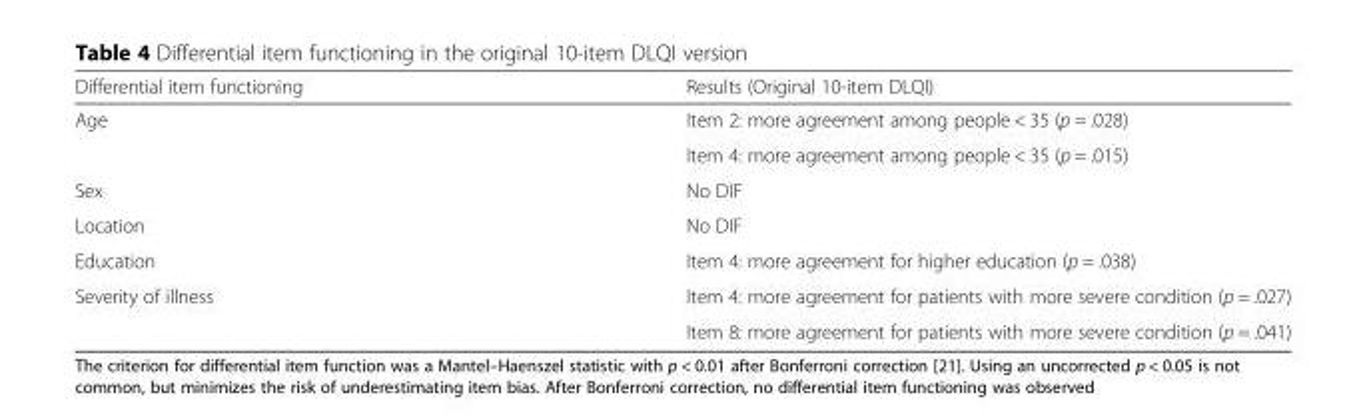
<table><thead><tr><td>Differential item functioning</td><td>Results (Original 10-item DLQI)</td></tr></thead><tbody><tr><td rowspan="2">Age</td><td>Item 2: more agreement among people &lt; 35 (p = .028)</td></tr><tr><td>Item 4: more agreement among people &lt; 35 (p = .015)</td></tr><tr><td>Sex</td><td>No DIF</td></tr><tr><td>Location</td><td>No DIF</td></tr><tr><td>Education</td><td>Item 4: more agreement for higher education (p = .038)</td></tr><tr><td rowspan="2">Severity of illness</td><td>Item 4: more agreement for patients with more severe condition (p = .027)</td></tr><tr><td>Item 8: more agreement for patients with more severe condition (p = .041)</td></tr></tbody></table>